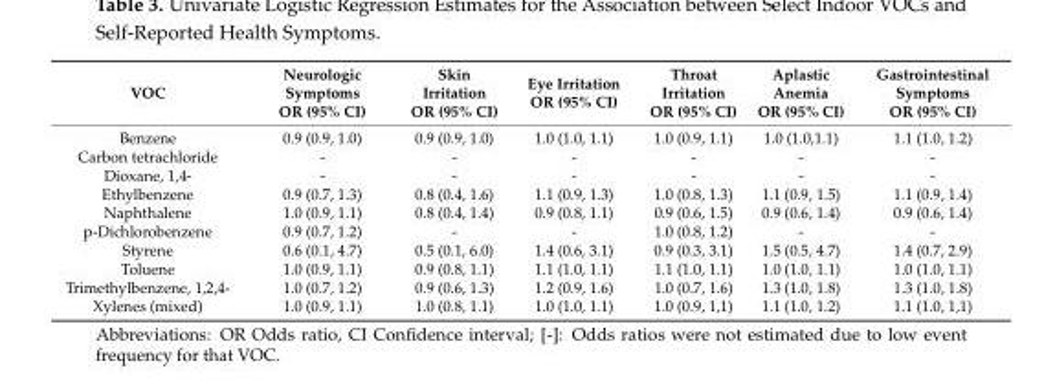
<table><thead><tr><td>VOC</td><td>Neurologic Symptoms OR (95% CI)</td><td>Skin Irritation OR (95% CI)</td><td>Eye Irritation OR (95% CI)</td><td>Throat Irritation OR (95% CI)</td><td>Aplastic Anemia OR (95% CI)</td><td>Gastrointestinal Symptoms OR (95% CI)</td></tr></thead><tbody><tr><td>Benzene</td><td>0.9 (0.9, 1.0)</td><td>0.9 (0.9, 1.0)</td><td>1.0 (1.0, 1.1)</td><td>1.0 (0.9, 1.1)</td><td>1.0 (1.0,1.1)</td><td>1.1 (1.0, 1.2)</td></tr><tr><td>Carbon tetrachloride</td><td>-</td><td>-</td><td>-</td><td>-</td><td>-</td><td>-</td></tr><tr><td>Dioxane, 1,4-</td><td>-</td><td>-</td><td>-</td><td>-</td><td>-</td><td>-</td></tr><tr><td>Ethylbenzene</td><td>0.9 (0.7, 1.3)</td><td>0.8 (0.4, 1.6)</td><td>1.1 (0.9, 1.3)</td><td>1.0 (0.8, 1.3)</td><td>1.1 (0.9, 1.5)</td><td>1.1 (0.9, 1.4)</td></tr><tr><td>Naphthalene</td><td>1.0 (0.9, 1.1)</td><td>0.8 (0.4, 1.4)</td><td>0.9 (0.8, 1.1)</td><td>0.9 (0.6, 1.5)</td><td>0.9 (0.6, 1.4)</td><td>0.9 (0.6, 1.4)</td></tr><tr><td>p-Dichlorobenzene</td><td>0.9 (0.7, 1.2)</td><td>-</td><td>-</td><td>1.0 (0.8, 1.2)</td><td>-</td><td>-</td></tr><tr><td>Styrene</td><td>0.6 (0.1, 4.7)</td><td>0.5 (0.1, 6.0)</td><td>1.4 (0.6, 3.1)</td><td>0.9 (0.3, 3.1)</td><td>1.5 (0.5, 4.7)</td><td>1.4 (0.7, 2.9)</td></tr><tr><td>Toluene</td><td>1.0 (0.9, 1.1)</td><td>0.9 (0.8, 1.1)</td><td>1.1 (1.0, 1.1)</td><td>1.1 (1.0, 1.1)</td><td>1.0 (1.0, 1.1)</td><td>1.0 (1.0, 1.1)</td></tr><tr><td>Trimethylbenzene, 1,2,4-</td><td>1.0 (0.7, 1.2)</td><td>0.9 (0.6, 1.3)</td><td>1.2 (0.9, 1.6)</td><td>1.0 (0.7, 1.6)</td><td>1.3 (1.0, 1.8)</td><td>1.3 (1.0, 1.8)</td></tr><tr><td>Xylenes (mixed)</td><td>1.0 (0.9, 1.1)</td><td>1.0 (0.8, 1.1)</td><td>1.0 (1.0, 1.1)</td><td>1.0 (0.9, 1,1)</td><td>1.1 (1.0, 1.2)</td><td>1.1 (1.0, 1,1)</td></tr></tbody></table>